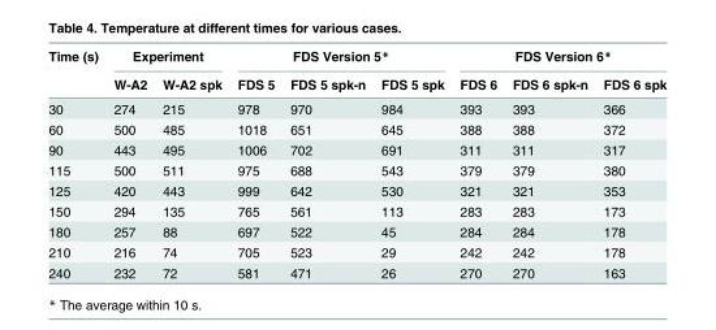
<table><thead><tr><td rowspan="2">Time (s)</td><td colspan="2">Experiment</td><td colspan="3">FDS Version 5*</td><td colspan="3">FDS Version 6*</td></tr><tr><td>W-A2</td><td>W-A2 spk</td><td>FDS 5</td><td>FDS 5 spk-n</td><td>FDS 5 spk</td><td>FDS 6</td><td>FDS 6 spk-n</td><td>FDS 6 spk</td></tr></thead><tbody><tr><td>30</td><td>274</td><td>215</td><td>978</td><td>970</td><td>984</td><td>393</td><td>393</td><td>366</td></tr><tr><td>60</td><td>500</td><td>485</td><td>1018</td><td>651</td><td>645</td><td>388</td><td>388</td><td>372</td></tr><tr><td>90</td><td>443</td><td>495</td><td>1006</td><td>702</td><td>691</td><td>311</td><td>311</td><td>317</td></tr><tr><td>115</td><td>500</td><td>511</td><td>975</td><td>688</td><td>543</td><td>379</td><td>379</td><td>380</td></tr><tr><td>125</td><td>420</td><td>443</td><td>999</td><td>642</td><td>530</td><td>321</td><td>321</td><td>353</td></tr><tr><td>150</td><td>294</td><td>135</td><td>765</td><td>561</td><td>113</td><td>283</td><td>283</td><td>173</td></tr><tr><td>180</td><td>257</td><td>88</td><td>697</td><td>522</td><td>45</td><td>284</td><td>284</td><td>178</td></tr><tr><td>210</td><td>216</td><td>74</td><td>705</td><td>523</td><td>29</td><td>242</td><td>242</td><td>178</td></tr><tr><td>240</td><td>232</td><td>72</td><td>581</td><td>471</td><td>26</td><td>270</td><td>270</td><td>163</td></tr></tbody></table>